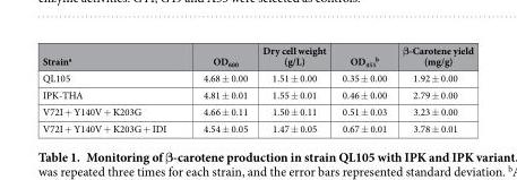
<table><thead><tr><td>Strain<sup>a</sup></td><td>OD<sub>600</sub></td><td>Dry cell weight (g/L)</td><td>OD<sub>453</sub> <sup>b</sup></td><td>β-Carotene yield (mg/g)</td></tr></thead><tbody><tr><td>QL105</td><td>4.68 ± 0.00</td><td>1.51 ± 0.00</td><td>0.35 ± 0.00</td><td>1.92 ± 0.00</td></tr><tr><td>IPK-THA</td><td>4.81 ± 0.01</td><td>1.55 ± 0.01</td><td>0.46 ± 0.00</td><td>2.79 ± 0.00</td></tr><tr><td>V72I + Y140V + K203G</td><td>4.66 ± 0.11</td><td>1.50 ± 0.11</td><td>0.51 ± 0.03</td><td>3.23 ± 0.00</td></tr><tr><td>V72I + Y140V + K203G + IDI</td><td>4.54 ± 0.05</td><td>1.47 ± 0.05</td><td>0.67 ± 0.01</td><td>3.78 ± 0.01</td></tr></tbody></table>